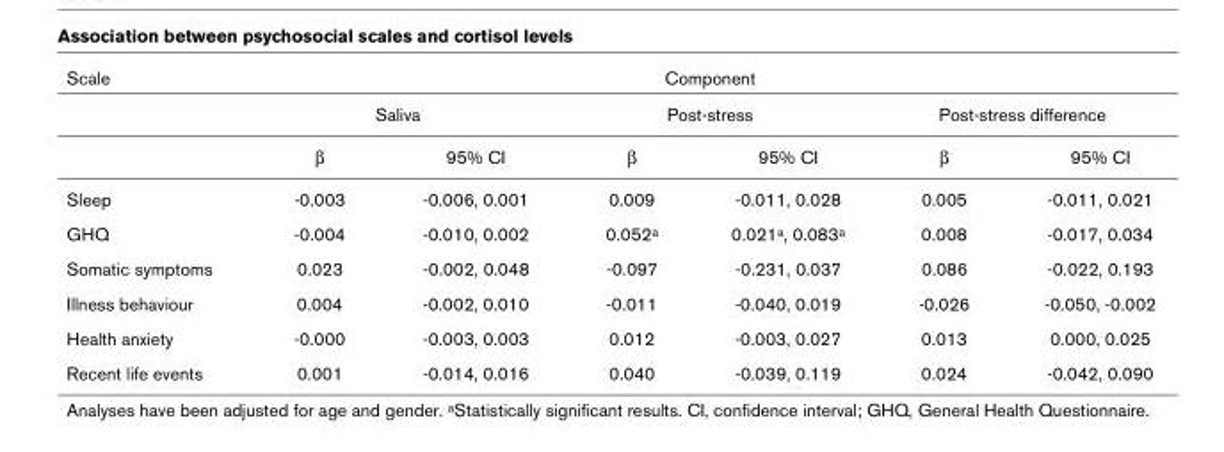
<table><thead><tr><td rowspan="3">Scale</td><td colspan="6">Component</td></tr><tr><td colspan="2">Saliva</td><td colspan="2">Post-stress</td><td colspan="2">Post-stress difference</td></tr><tr><td>β</td><td>95% CI</td><td>β</td><td>95% CI</td><td>β</td><td>95% CI</td></tr></thead><tbody><tr><td>Sleep</td><td>-0.003</td><td>-0.006, 0.001</td><td>0.009</td><td>-0.011, 0.028</td><td>0.005</td><td>-0.011, 0.021</td></tr><tr><td>GHQ</td><td>-0.004</td><td>-0.010, 0.002</td><td>0.052a</td><td>0.021a, 0.083a</td><td>0.008</td><td>-0.017, 0.034</td></tr><tr><td>Somatic symptoms</td><td>0.023</td><td>-0.002, 0.048</td><td>-0.097</td><td>-0.231, 0.037</td><td>0.086</td><td>-0.022, 0.193</td></tr><tr><td>Illness behaviour</td><td>0.004</td><td>-0.002, 0.010</td><td>-0.011</td><td>-0.040, 0.019</td><td>-0.026</td><td>-0.050, -0.002</td></tr><tr><td>Health anxiety</td><td>-0.000</td><td>-0.003, 0.003</td><td>0.012</td><td>-0.003, 0.027</td><td>0.013</td><td>0.000, 0.025</td></tr><tr><td>Recent life events</td><td>0.001</td><td>-0.014, 0.016</td><td>0.040</td><td>-0.039, 0.119</td><td>0.024</td><td>-0.042, 0.090</td></tr></tbody></table>